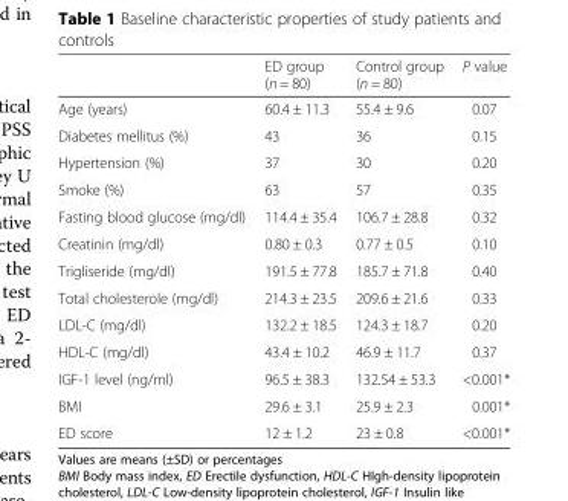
<table><thead><tr><td></td><td>ED group (n = 80)</td><td>Control group (n = 80)</td><td>P value</td></tr></thead><tbody><tr><td>Age (years)</td><td>60.4 ± 11.3</td><td>55.4 ± 9.6</td><td>0.07</td></tr><tr><td>Diabetes mellitus (%)</td><td>43</td><td>36</td><td>0.15</td></tr><tr><td>Hypertension (%)</td><td>37</td><td>30</td><td>0.20</td></tr><tr><td>Smoke (%)</td><td>63</td><td>57</td><td>0.35</td></tr><tr><td>Fasting blood glucose (mg/dl)</td><td>114.4 ± 35.4</td><td>106.7 ± 28.8</td><td>0.32</td></tr><tr><td>Creatinin (mg/dl)</td><td>0.80 ± 0.3</td><td>0.77 ± 0.5</td><td>0.10</td></tr><tr><td>Trigliseride (mg/dl)</td><td>191.5 ± 77.8</td><td>185.7 ± 71.8</td><td>0.40</td></tr><tr><td>Total cholesterole (mg/dl)</td><td>214.3 ± 23.5</td><td>209.6 ± 21.6</td><td>0.33</td></tr><tr><td>LDL-C (mg/dl)</td><td>132.2 ± 18.5</td><td>124.3 ± 18.7</td><td>0.20</td></tr><tr><td>HDL-C (mg/dl)</td><td>43.4 ± 10.2</td><td>46.9 ± 11.7</td><td>0.37</td></tr><tr><td>IGF-1 level (ng/ml)</td><td>96.5 ± 38.3</td><td>132.54 ± 53.3</td><td>&lt;0.001*</td></tr><tr><td>BMI</td><td>29.6 ± 3.1</td><td>25.9 ± 2.3</td><td>0.001*</td></tr><tr><td>ED score</td><td>12 ± 1.2</td><td>23 ± 0.8</td><td>&lt;0.001*</td></tr></tbody></table>